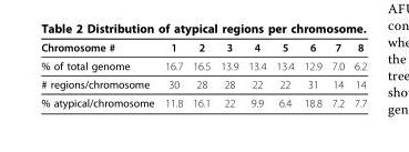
<table><thead><tr><td>Chromosome #</td><td>1</td><td>2</td><td>3</td><td>4</td><td>5</td><td>6</td><td>7</td><td>8</td></tr></thead><tbody><tr><td>% of total genome</td><td>16.7</td><td>16.5</td><td>13.9</td><td>13.4</td><td>13.4</td><td>12.9</td><td>7.0</td><td>6.2</td></tr><tr><td># regions/chromosome</td><td>30</td><td>28</td><td>28</td><td>22</td><td>22</td><td>31</td><td>14</td><td>14</td></tr><tr><td>% atypical/chromosome</td><td>11.8</td><td>16.1</td><td>22</td><td>9.9</td><td>6.4</td><td>18.8</td><td>7.2</td><td>7.7</td></tr></tbody></table>